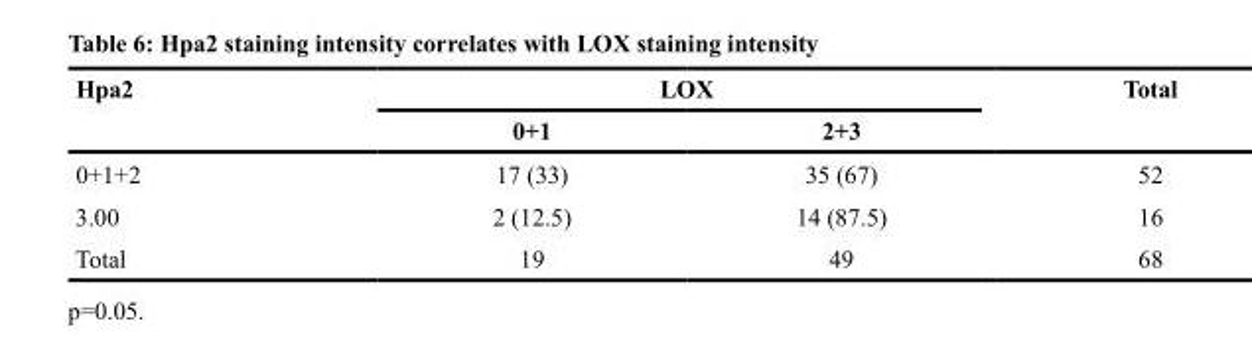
<table><thead><tr><td rowspan="2">Hpa2</td><td colspan="2">LOX</td><td rowspan="2">Total</td></tr><tr><td>0+1</td><td>2+3</td></tr></thead><tbody><tr><td>0+1+2</td><td>17 (33)</td><td>35 (67)</td><td>52</td></tr><tr><td>3.00</td><td>2 (12.5)</td><td>14 (87.5)</td><td>16</td></tr><tr><td>Total</td><td>19</td><td>49</td><td>68</td></tr></tbody></table>